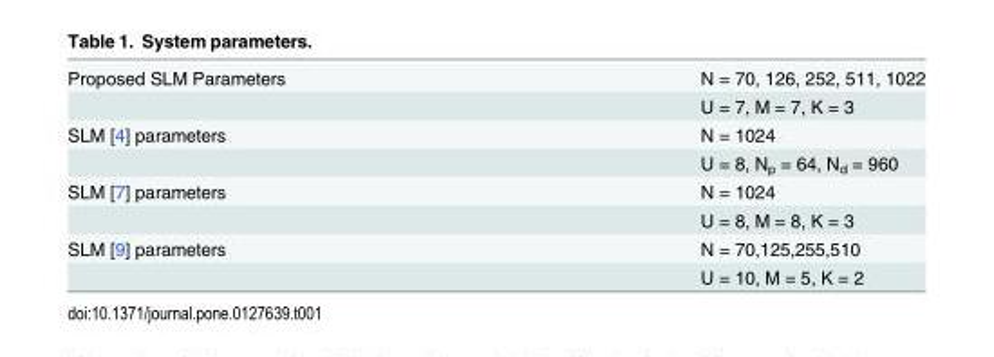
<table><tbody><tr><td rowspan="2">Proposed SLM Parameters</td><td>N = 70, 126, 252, 511, 1022</td></tr><tr><td>U = 7, M = 7, K = 3</td></tr><tr><td rowspan="2">SLM [4] parameters</td><td>N = 1024</td></tr><tr><td>U = 8, N<sub>p</sub> = 64, N<sub>d</sub> = 960</td></tr><tr><td rowspan="2">SLM [7] parameters</td><td>N = 1024</td></tr><tr><td>U = 8, M = 8, K = 3</td></tr><tr><td rowspan="2">SLM [9] parameters</td><td>N = 70,125,255,510</td></tr><tr><td>U = 10, M = 5, K = 2</td></tr></tbody></table>